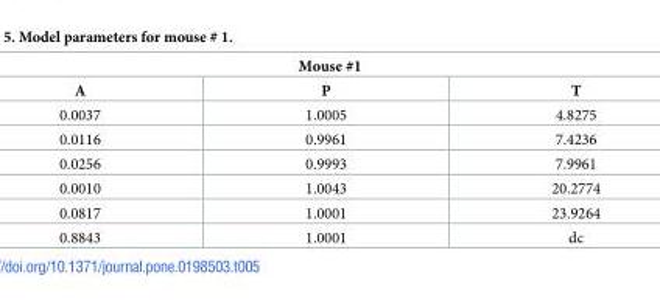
<table><thead><tr><td colspan="3">Mouse #1</td></tr><tr><td>A</td><td>P</td><td>T</td></tr></thead><tbody><tr><td>0.0037</td><td>1.0005</td><td>4.8275</td></tr><tr><td>0.0116</td><td>0.9961</td><td>7.4236</td></tr><tr><td>0.0256</td><td>0.9993</td><td>7.9961</td></tr><tr><td>0.0010</td><td>1.0043</td><td>20.2774</td></tr><tr><td>0.0817</td><td>1.0001</td><td>23.9264</td></tr><tr><td>0.8843</td><td>1.0001</td><td>dc</td></tr></tbody></table>